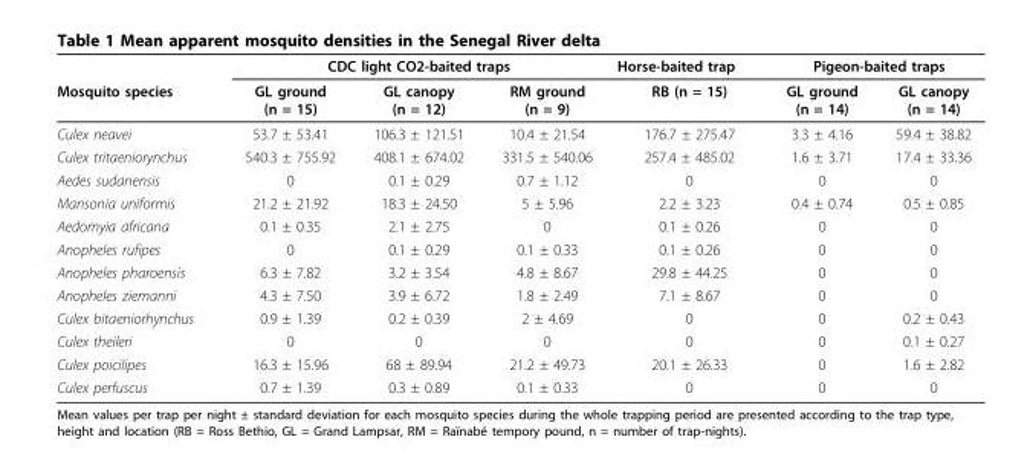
<table><thead><tr><td rowspan="2">Mosquito species</td><td colspan="3">CDC light CO2-baited traps</td><td rowspan="2">Horse-baited trap RB (n = 15)</td><td colspan="2">Pigeon-baited traps</td></tr><tr><td>GL ground (n = 15)</td><td>GL canopy (n = 12)</td><td>RM ground (n = 9)</td><td>GL ground (n = 14)</td><td>GL canopy (n = 14)</td></tr></thead><tbody><tr><td>Culex neavei</td><td>53.7 ± 53.41</td><td>106.3 ± 121.51</td><td>10.4 ± 21.54</td><td>176.7 ± 275.47</td><td>3.3 ± 4.16</td><td>59.4 ± 38.82</td></tr><tr><td>Culex tritaeniorynchus</td><td>540.3 ± 755.92</td><td>408.1 ± 674.02</td><td>331.5 ± 540.06</td><td>257.4 ± 485.02</td><td>1.6 ± 3.71</td><td>17.4 ± 33.36</td></tr><tr><td>Aedes sudanensis</td><td>0</td><td>0.1 ± 0.29</td><td>0.7 ± 1.12</td><td>0</td><td>0</td><td>0</td></tr><tr><td>Mansonia uniformis</td><td>21.2 ± 21.92</td><td>18.3 ± 24.50</td><td>5 ± 5.96</td><td>2.2 ± 3.23</td><td>0.4 ± 0.74</td><td>0.5 ± 0.85</td></tr><tr><td>Aedomyia africana</td><td>0.1 ± 0.35</td><td>2.1 ± 2.75</td><td>0</td><td>0.1 ± 0.26</td><td>0</td><td>0</td></tr><tr><td>Anopheles rufipes</td><td>0</td><td>0.1 ± 0.29</td><td>0.1 ± 0.33</td><td>0.1 ± 0.26</td><td>0</td><td>0</td></tr><tr><td>Anopheles pharoensis</td><td>6.3 ± 7.82</td><td>3.2 ± 3.54</td><td>4.8 ± 8.67</td><td>29.8 ± 44.25</td><td>0</td><td>0</td></tr><tr><td>Anopheles ziemanni</td><td>4.3 ± 7.50</td><td>3.9 ± 6.72</td><td>1.8 ± 2.49</td><td>7.1 ± 8.67</td><td>0</td><td>0</td></tr><tr><td>Culex bitaeniorhynchus</td><td>0.9 ± 1.39</td><td>0.2 ± 0.39</td><td>2 ± 4.69</td><td>0</td><td>0</td><td>0.2 ± 0.43</td></tr><tr><td>Culex theileri</td><td>0</td><td>0</td><td>0</td><td>0</td><td>0</td><td>0.1 ± 0.27</td></tr><tr><td>Culex poicilipes</td><td>16.3 ± 15.96</td><td>68 ± 89.94</td><td>21.2 ± 49.73</td><td>20.1 ± 26.33</td><td>0</td><td>1.6 ± 2.82</td></tr><tr><td>Culex perfuscus</td><td>0.7 ± 1.39</td><td>0.3 ± 0.89</td><td>0.1 ± 0.33</td><td>0</td><td>0</td><td>0</td></tr></tbody></table>